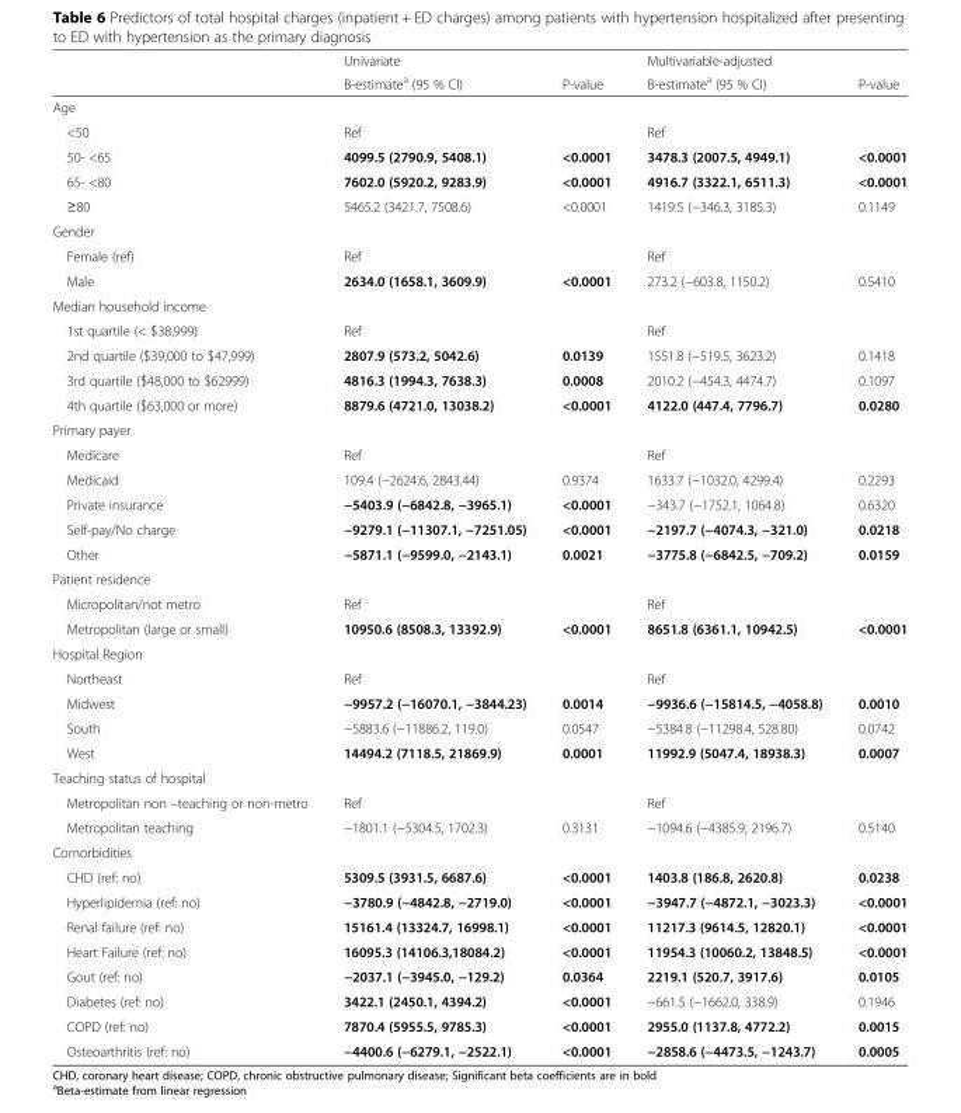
<table><thead><tr><td rowspan="2"></td><td rowspan="2">Univariate B-estimate<sup>a</sup> (95 % CI)</td><td rowspan="2">P-value</td><td rowspan="2">Multivariable-adjusted B-estimate<sup>a</sup> (95 % CI)</td><td rowspan="2">P-value</td></tr><tr></tr></thead><tbody><tr><td colspan="5">Age</td></tr><tr><td>&lt;50</td><td>Ref</td><td></td><td>Ref</td><td></td></tr><tr><td>50- &lt;65</td><td>4099.5 (2790.9, 5408.1)</td><td>&lt;0.0001</td><td>3478.3 (2007.5, 4949.1)</td><td>&lt;0.0001</td></tr><tr><td>65- &lt;80</td><td>7602.0 (5920.2, 9283.9)</td><td>&lt;0.0001</td><td>4916.7 (3322.1, 6511.3)</td><td>&lt;0.0001</td></tr><tr><td>≥80</td><td>5465.2 (3421.7, 7508.6)</td><td>&lt;0.0001</td><td>1419.5 (−346.3, 3185.3)</td><td>0.1149</td></tr><tr><td colspan="5">Gender</td></tr><tr><td>Female (ref)</td><td>Ref</td><td></td><td>Ref</td><td></td></tr><tr><td>Male</td><td>2634.0 (1658.1, 3609.9)</td><td>&lt;0.0001</td><td>273.2 (−603.8, 1150.2)</td><td>0.5410</td></tr><tr><td colspan="5">Median household income</td></tr><tr><td>1st quartile (&lt; $38,999)</td><td>Ref</td><td></td><td>Ref</td><td></td></tr><tr><td>2nd quartile ($39,000 to $47,999)</td><td>2807.9 (573.2, 5042.6)</td><td>0.0139</td><td>1551.8 (−519.5, 3623.2)</td><td>0.1418</td></tr><tr><td>3rd quartile ($48,000 to $62999)</td><td>4816.3 (1994.3, 7638.3)</td><td>0.0008</td><td>2010.2 (−454.3, 4474.7)</td><td>0.1097</td></tr><tr><td>4th quartile ($63,000 or more)</td><td>8879.6 (4721.0, 13038.2)</td><td>&lt;0.0001</td><td>4122.0 (447.4, 7796.7)</td><td>0.0280</td></tr><tr><td colspan="5">Primary payer</td></tr><tr><td>Medicare</td><td>Ref</td><td></td><td>Ref</td><td></td></tr><tr><td>Medicaid</td><td>109.4 (−2624.6, 2843.44)</td><td>0.9374</td><td>1633.7 (−1032.0, 4299.4)</td><td>0.2293</td></tr><tr><td>Private insurance</td><td>−5403.9 (−6842.8, −3965.1)</td><td>&lt;0.0001</td><td>−343.7 (−1752.1, 1064.8)</td><td>0.6320</td></tr><tr><td>Self-pay/No charge</td><td>−9279.1 (−11307.1, −7251.05)</td><td>&lt;0.0001</td><td>−2197.7 (−4074.3, −321.0)</td><td>0.0218</td></tr><tr><td>Other</td><td>−5871.1 (−9599.0, −2143.1)</td><td>0.0021</td><td>−3775.8 (−6842.5, −709.2)</td><td>0.0159</td></tr><tr><td colspan="5">Patient residence</td></tr><tr><td>Micropolitan/not metro</td><td>Ref</td><td></td><td>Ref</td><td></td></tr><tr><td>Metropolitan (large or small)</td><td>10950.6 (8508.3, 13392.9)</td><td>&lt;0.0001</td><td>8651.8 (6361.1, 10942.5)</td><td>&lt;0.0001</td></tr><tr><td colspan="5">Hospital Region</td></tr><tr><td>Northeast</td><td>Ref</td><td></td><td>Ref</td><td></td></tr><tr><td>Midwest</td><td>−9957.2 (−16070.1, −3844.23)</td><td>0.0014</td><td>−9936.6 (−15814.5, −4058.8)</td><td>0.0010</td></tr><tr><td>South</td><td>−5883.6 (−11886.2, 119.0)</td><td>0.0547</td><td>−5384.8 (−11298.4, 528.80)</td><td>0.0742</td></tr><tr><td>West</td><td>14494.2 (7118.5, 21869.9)</td><td>0.0001</td><td>11992.9 (5047.4, 18938.3)</td><td>0.0007</td></tr><tr><td colspan="5">Teaching status of hospital</td></tr><tr><td>Metropolitan non –teaching or non-metro</td><td>Ref</td><td></td><td>Ref</td><td></td></tr><tr><td>Metropolitan teaching</td><td>−1801.1 (−5304.5, 1702.3)</td><td>0.3131</td><td>−1094.6 (−4385.9, 2196.7)</td><td>0.5140</td></tr><tr><td colspan="5">Comorbidities</td></tr><tr><td>CHD (ref: no)</td><td>5309.5 (3931.5, 6687.6)</td><td>&lt;0.0001</td><td>1403.8 (186.8, 2620.8)</td><td>0.0238</td></tr><tr><td>Hyperlipidemia (ref: no)</td><td>−3780.9 (−4842.8, −2719.0)</td><td>&lt;0.0001</td><td>−3947.7 (−4872.1, −3023.3)</td><td>&lt;0.0001</td></tr><tr><td>Renal failure (ref: no)</td><td>15161.4 (13324.7, 16998.1)</td><td>&lt;0.0001</td><td>11217.3 (9614.5, 12820.1)</td><td>&lt;0.0001</td></tr><tr><td>Heart Failure (ref: no)</td><td>16095.3 (14106.3,18084.2)</td><td>&lt;0.0001</td><td>11954.3 (10060.2, 13848.5)</td><td>&lt;0.0001</td></tr><tr><td>Gout (ref: no)</td><td>−2037.1 (−3945.0, −129.2)</td><td>0.0364</td><td>2219.1 (520.7, 3917.6)</td><td>0.0105</td></tr><tr><td>Diabetes (ref: no)</td><td>3422.1 (2450.1, 4394.2)</td><td>&lt;0.0001</td><td>−661.5 (−1662.0, 338.9)</td><td>0.1946</td></tr><tr><td>COPD (ref: no)</td><td>7870.4 (5955.5, 9785.3)</td><td>&lt;0.0001</td><td>2955.0 (1137.8, 4772.2)</td><td>0.0015</td></tr><tr><td>Osteoarthritis (ref: no)</td><td>−4400.6 (−6279.1, −2522.1)</td><td>&lt;0.0001</td><td>−2858.6 (−4473.5, −1243.7)</td><td>0.0005</td></tr></tbody></table>